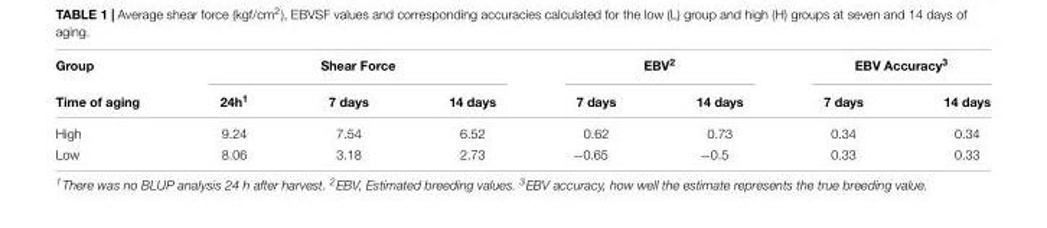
<table><thead><tr><td rowspan="2">Group Time of aging</td><td colspan="3">Shear Force</td><td colspan="2">EBV<sup>2</sup></td><td colspan="2">EBV Accuracy<sup>3</sup></td></tr><tr><td>24h<sup>1</sup></td><td>7 days</td><td>14 days</td><td>7 days</td><td>14 days</td><td>7 days</td><td>14 days</td></tr></thead><tbody><tr><td>High</td><td>9.24</td><td>7.54</td><td>6.52</td><td>0.62</td><td>0.73</td><td>0.34</td><td>0.34</td></tr><tr><td>Low</td><td>8.06</td><td>3.18</td><td>2.73</td><td>−0.65</td><td>−0.5</td><td>0.33</td><td>0.33</td></tr></tbody></table>